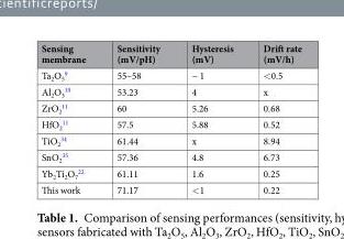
<table><thead><tr><td>Sensing membrane</td><td>Sensitivity (mV/pH)</td><td>Hysteresis (mV)</td><td>Drift rate (mV/h)</td></tr></thead><tbody><tr><td>Ta<sub>2</sub>O<sub>5</sub> <sup>9</sup></td><td>55–58</td><td>~ 1</td><td>&lt;0.5</td></tr><tr><td>Al<sub>2</sub>O<sub>3</sub> <sup>10</sup></td><td>53.23</td><td>4</td><td>x</td></tr><tr><td>ZrO<sub>2</sub> <sup>11</sup></td><td>60</td><td>5.26</td><td>0.68</td></tr><tr><td>HfO<sub>2</sub> <sup>11</sup></td><td>57.5</td><td>5.88</td><td>0.52</td></tr><tr><td>TiO<sub>2</sub> <sup>34</sup></td><td>61.44</td><td>x</td><td>8.94</td></tr><tr><td>SnO<sub>2</sub> <sup>35</sup></td><td>57.36</td><td>4.8</td><td>6.73</td></tr><tr><td>Yb<sub>2</sub>Ti<sub>2</sub>O<sub>7</sub> <sup>22</sup></td><td>61.11</td><td>1.6</td><td>0.25</td></tr><tr><td>This work</td><td>71.17</td><td>&lt;1</td><td>0.22</td></tr></tbody></table>